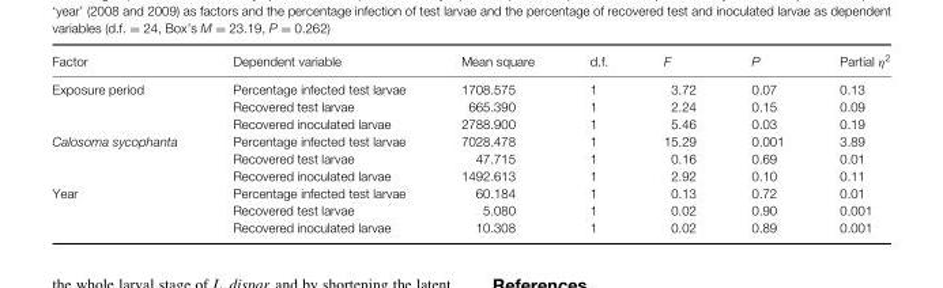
<table><thead><tr><td>Factor</td><td>Dependent variable</td><td>Mean square</td><td>d.f.</td><td>F</td><td>P</td><td>Partial η<sup>2</sup></td></tr></thead><tbody><tr><td rowspan="3">Exposure period</td><td>Percentage infected test larvae</td><td>1708.575</td><td>1</td><td>3.72</td><td>0.07</td><td>0.13</td></tr><tr><td>Recovered test larvae</td><td>665.390</td><td>1</td><td>2.24</td><td>0.15</td><td>0.09</td></tr><tr><td>Recovered inoculated larvae</td><td>2788.900</td><td>1</td><td>5.46</td><td>0.03</td><td>0.19</td></tr><tr><td rowspan="3">Calosoma sycophanta</td><td>Percentage infected test larvae</td><td>7028.478</td><td>1</td><td>15.29</td><td>0.001</td><td>3.89</td></tr><tr><td>Recovered test larvae</td><td>47.715</td><td>1</td><td>0.16</td><td>0.69</td><td>0.01</td></tr><tr><td>Recovered inoculated larvae</td><td>1492.613</td><td>1</td><td>2.92</td><td>0.10</td><td>0.11</td></tr><tr><td rowspan="3">Year</td><td>Percentage infected test larvae</td><td>60.184</td><td>1</td><td>0.13</td><td>0.72</td><td>0.01</td></tr><tr><td>Recovered test larvae</td><td>5.080</td><td>1</td><td>0.02</td><td>0.90</td><td>0.001</td></tr><tr><td>Recovered inoculated larvae</td><td>10.308</td><td>1</td><td>0.02</td><td>0.89</td><td>0.001</td></tr></tbody></table>